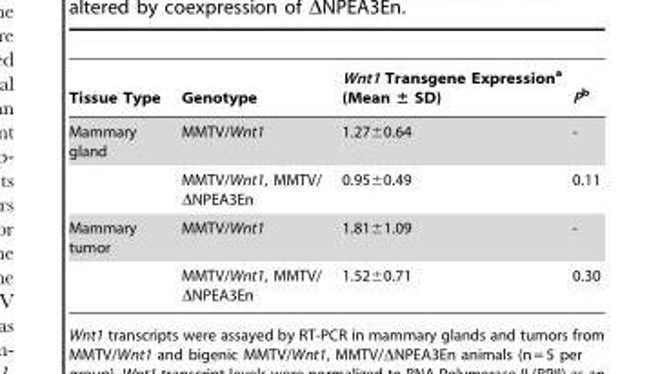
<table><thead><tr><td>Tissue Type</td><td>Genotype</td><td>Wnt1 Transgene Expression<sup>a</sup> (Mean ± SD)</td><td>Pb</td></tr></thead><tbody><tr><td rowspan="2">Mammary gland</td><td>MMTV/Wnt1</td><td>1.27±0.64</td><td>-</td></tr><tr><td>MMTV/Wnt1, MMTV/ ΔNPEA3En</td><td>0.95±0.49</td><td>0.11</td></tr><tr><td rowspan="2">Mammary tumor</td><td>MMTV/Wnt1</td><td>1.81±1.09</td><td>-</td></tr><tr><td>MMTV/Wnt1, MMTV/ ΔNPEA3En</td><td>1.52±0.71</td><td>0.30</td></tr></tbody></table>